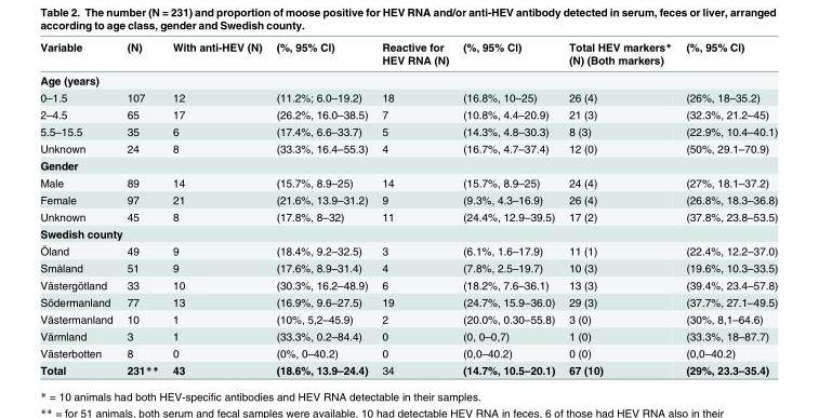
<table><thead><tr><td>Variable</td><td>(N)</td><td>With anti-HEV (N)</td><td>(%, 95% Cl)</td><td>Reactive for HEV RNA (N)</td><td>(%, 95% Cl)</td><td>Total HEV markers* (N) (Both markers)</td><td>(%, 95% Cl)</td></tr></thead><tbody><tr><td colspan="8">Age (years)</td></tr><tr><td>0–1.5</td><td>107</td><td>12</td><td>(11.2%; 6.0–19.2)</td><td>18</td><td>(16.8%, 10–25)</td><td>26 (4)</td><td>(26%, 18–35.2)</td></tr><tr><td>2–4.5</td><td>65</td><td>17</td><td>(26.2%, 16.0–38.5)</td><td>7</td><td>(10.8%, 4.4–20.9)</td><td>21 (3)</td><td>(32.3%, 21.2–45)</td></tr><tr><td>5.5–15.5</td><td>35</td><td>6</td><td>(17.4%, 6.6–33.7)</td><td>5</td><td>(14.3%, 4.8–30.3)</td><td>8 (3)</td><td>(22.9%, 10.4–40.1)</td></tr><tr><td>Unknown</td><td>24</td><td>8</td><td>(33.3%, 16.4–55.3)</td><td>4</td><td>(16.7%, 4.7–37.4)</td><td>12 (0)</td><td>(50%, 29.1–70.9)</td></tr><tr><td colspan="8">Gender</td></tr><tr><td>Male</td><td>89</td><td>14</td><td>(15.7%, 8.9–25)</td><td>14</td><td>(15.7%, 8.9–25)</td><td>24 (4)</td><td>(27%, 18.1–37.2)</td></tr><tr><td>Female</td><td>97</td><td>21</td><td>(21.6%, 13.9–31.2)</td><td>9</td><td>(9.3%, 4.3–16.9)</td><td>26 (4)</td><td>(26.8%, 18.3–36.8)</td></tr><tr><td>Unknown</td><td>45</td><td>8</td><td>(17.8%, 8–32)</td><td>11</td><td>(24.4%, 12.9–39.5)</td><td>17 (2)</td><td>(37.8%, 23.8–53.5)</td></tr><tr><td colspan="8">Swedish county</td></tr><tr><td>Öland</td><td>49</td><td>9</td><td>(18.4%, 9.2–32.5)</td><td>3</td><td>(6.1%, 1.6–17.9)</td><td>11 (1)</td><td>(22.4%, 12.2–37.0)</td></tr><tr><td>Småland</td><td>51</td><td>9</td><td>(17.6%, 8.9–31.4)</td><td>4</td><td>(7.8%, 2.5–19.7)</td><td>10 (3)</td><td>(19.6%, 10.3–33.5)</td></tr><tr><td>Västergötland</td><td>33</td><td>10</td><td>(30.3%, 16.2–48.9)</td><td>6</td><td>(18.2%, 7.6–36.1)</td><td>13 (3)</td><td>(39.4%, 23.4–57.8)</td></tr><tr><td>Södermanland</td><td>77</td><td>13</td><td>(16.9%, 9.6–27.5)</td><td>19</td><td>(24.7%, 15.9–36.0)</td><td>29 (3)</td><td>(37.7%, 27.1–49.5)</td></tr><tr><td>Västermanland</td><td>10</td><td>1</td><td>(10%, 5,2–45.9)</td><td>2</td><td>(20.0%, 0.30–55.8)</td><td>3 (0)</td><td>(30%, 8,1–64.6)</td></tr><tr><td>Värmland</td><td>3</td><td>1</td><td>(33.3%, 0.2–84.4)</td><td>0</td><td>(0, 0–0,7)</td><td>1 (0)</td><td>(33.3%, 18–87.7)</td></tr><tr><td>Västerbotten</td><td>8</td><td>0</td><td>(0%, 0–40.2)</td><td>0</td><td>(0,0–40.2)</td><td>0 (0)</td><td>(0,0–40.2)</td></tr><tr><td>Total</td><td>231**</td><td>43</td><td>(18.6%, 13.9–24.4)</td><td>34</td><td>(14.7%, 10.5–20.1)</td><td>67 (10)</td><td>(29%, 23.3–35.4)</td></tr></tbody></table>